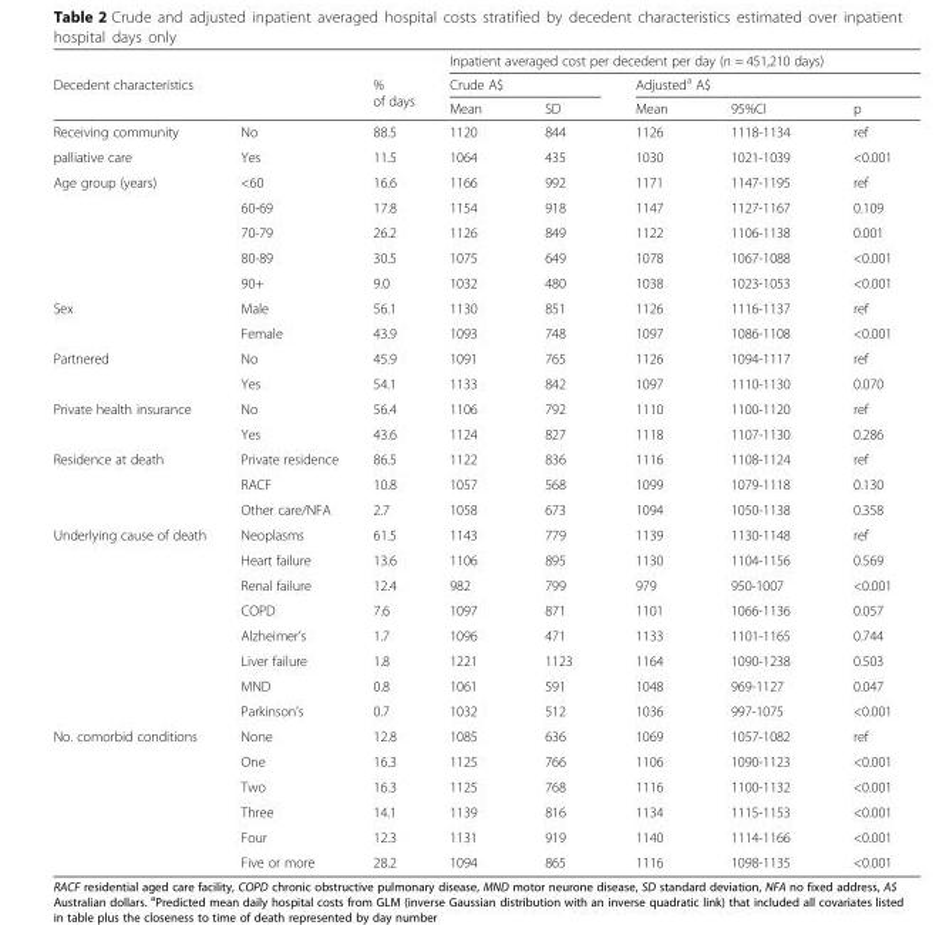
<table><thead><tr><td rowspan="3">Decedent characteristics</td><td rowspan="3"></td><td rowspan="3">% of days</td><td colspan="5">Inpatient averaged cost per decedent per day (n = 451,210 days)</td></tr><tr><td colspan="2">Crude A$</td><td colspan="3">Adjusted<sup>a</sup> A$</td></tr><tr><td>Mean</td><td>SD</td><td>Mean</td><td>95%CI</td><td>p</td></tr></thead><tbody><tr><td>Receiving community</td><td>No</td><td>88.5</td><td>1120</td><td>844</td><td>1126</td><td>1118-1134</td><td>ref</td></tr><tr><td>palliative care</td><td>Yes</td><td>11.5</td><td>1064</td><td>435</td><td>1030</td><td>1021-1039</td><td>&lt;0.001</td></tr><tr><td rowspan="5">Age group (years)</td><td>&lt;60</td><td>16.6</td><td>1166</td><td>992</td><td>1171</td><td>1147-1195</td><td>ref</td></tr><tr><td>60-69</td><td>17.8</td><td>1154</td><td>918</td><td>1147</td><td>1127-1167</td><td>0.109</td></tr><tr><td>70-79</td><td>26.2</td><td>1126</td><td>849</td><td>1122</td><td>1106-1138</td><td>0.001</td></tr><tr><td>80-89</td><td>30.5</td><td>1075</td><td>649</td><td>1078</td><td>1067-1088</td><td>&lt;0.001</td></tr><tr><td>90+</td><td>9.0</td><td>1032</td><td>480</td><td>1038</td><td>1023-1053</td><td>&lt;0.001</td></tr><tr><td rowspan="2">Sex</td><td>Male</td><td>56.1</td><td>1130</td><td>851</td><td>1126</td><td>1116-1137</td><td>ref</td></tr><tr><td>Female</td><td>43.9</td><td>1093</td><td>748</td><td>1097</td><td>1086-1108</td><td>&lt;0.001</td></tr><tr><td rowspan="2">Partnered</td><td>No</td><td>45.9</td><td>1091</td><td>765</td><td>1126</td><td>1094-1117</td><td>ref</td></tr><tr><td>Yes</td><td>54.1</td><td>1133</td><td>842</td><td>1097</td><td>1110-1130</td><td>0.070</td></tr><tr><td rowspan="2">Private health insurance</td><td>No</td><td>56.4</td><td>1106</td><td>792</td><td>1110</td><td>1100-1120</td><td>ref</td></tr><tr><td>Yes</td><td>43.6</td><td>1124</td><td>827</td><td>1118</td><td>1107-1130</td><td>0.286</td></tr><tr><td rowspan="3">Residence at death</td><td>Private residence</td><td>86.5</td><td>1122</td><td>836</td><td>1116</td><td>1108-1124</td><td>ref</td></tr><tr><td>RACF</td><td>10.8</td><td>1057</td><td>568</td><td>1099</td><td>1079-1118</td><td>0.130</td></tr><tr><td>Other care/NFA</td><td>2.7</td><td>1058</td><td>673</td><td>1094</td><td>1050-1138</td><td>0.358</td></tr><tr><td rowspan="8">Underlying cause of death</td><td>Neoplasms</td><td>61.5</td><td>1143</td><td>779</td><td>1139</td><td>1130-1148</td><td>ref</td></tr><tr><td>Heart failure</td><td>13.6</td><td>1106</td><td>895</td><td>1130</td><td>1104-1156</td><td>0.569</td></tr><tr><td>Renal failure</td><td>12.4</td><td>982</td><td>799</td><td>979</td><td>950-1007</td><td>&lt;0.001</td></tr><tr><td>COPD</td><td>7.6</td><td>1097</td><td>871</td><td>1101</td><td>1066-1136</td><td>0.057</td></tr><tr><td>Alzheimer’s</td><td>1.7</td><td>1096</td><td>471</td><td>1133</td><td>1101-1165</td><td>0.744</td></tr><tr><td>Liver failure</td><td>1.8</td><td>1221</td><td>1123</td><td>1164</td><td>1090-1238</td><td>0.503</td></tr><tr><td>MND</td><td>0.8</td><td>1061</td><td>591</td><td>1048</td><td>969-1127</td><td>0.047</td></tr><tr><td>Parkinson’s</td><td>0.7</td><td>1032</td><td>512</td><td>1036</td><td>997-1075</td><td>&lt;0.001</td></tr><tr><td rowspan="6">No. comorbid conditions</td><td>None</td><td>12.8</td><td>1085</td><td>636</td><td>1069</td><td>1057-1082</td><td>ref</td></tr><tr><td>One</td><td>16.3</td><td>1125</td><td>766</td><td>1106</td><td>1090-1123</td><td>&lt;0.001</td></tr><tr><td>Two</td><td>16.3</td><td>1125</td><td>768</td><td>1116</td><td>1100-1132</td><td>&lt;0.001</td></tr><tr><td>Three</td><td>14.1</td><td>1139</td><td>816</td><td>1134</td><td>1115-1153</td><td>&lt;0.001</td></tr><tr><td>Four</td><td>12.3</td><td>1131</td><td>919</td><td>1140</td><td>1114-1166</td><td>&lt;0.001</td></tr><tr><td>Five or more</td><td>28.2</td><td>1094</td><td>865</td><td>1116</td><td>1098-1135</td><td>&lt;0.001</td></tr></tbody></table>